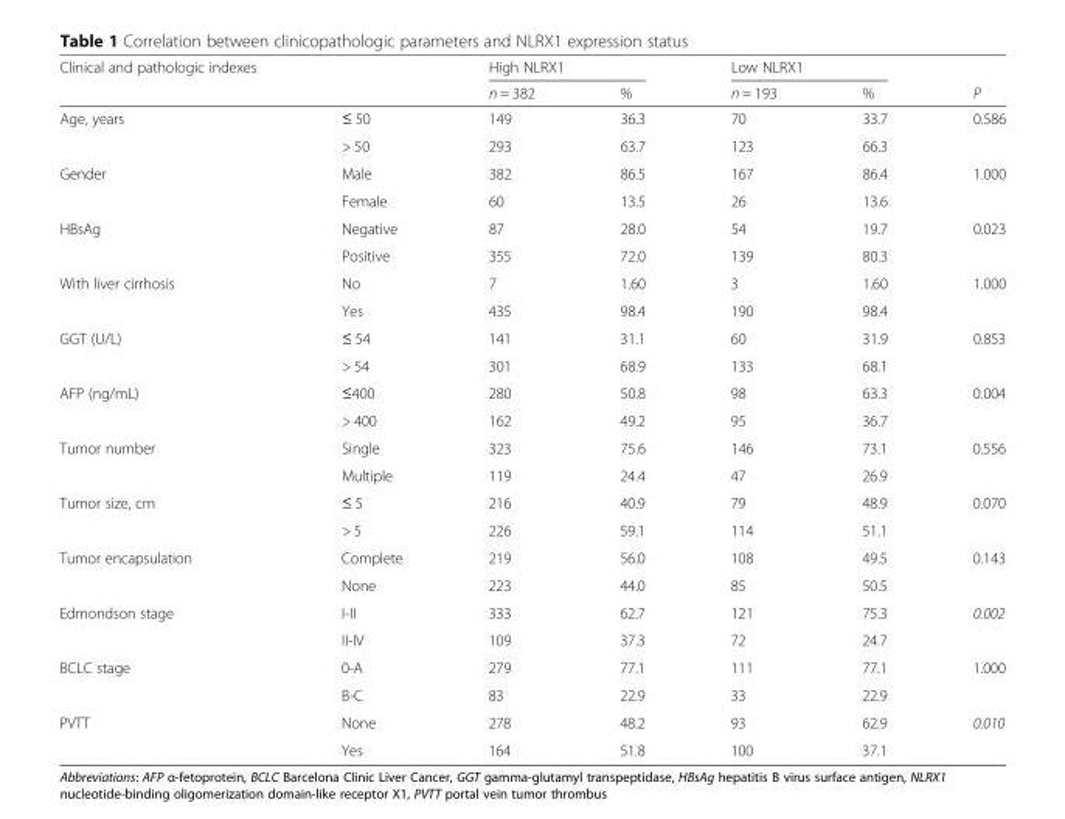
<table><thead><tr><td rowspan="2">Clinical and pathologic indexes</td><td rowspan="2"></td><td colspan="2">High NLRX1</td><td colspan="2">Low NLRX1</td><td rowspan="2">P</td></tr><tr><td>n = 382</td><td>%</td><td>n = 193</td><td>%</td></tr></thead><tbody><tr><td rowspan="2">Age, years</td><td>≤ 50</td><td>149</td><td>36.3</td><td>70</td><td>33.7</td><td>0.586</td></tr><tr><td>&gt; 50</td><td>293</td><td>63.7</td><td>123</td><td>66.3</td><td></td></tr><tr><td rowspan="2">Gender</td><td>Male</td><td>382</td><td>86.5</td><td>167</td><td>86.4</td><td>1.000</td></tr><tr><td>Female</td><td>60</td><td>13.5</td><td>26</td><td>13.6</td><td></td></tr><tr><td rowspan="2">HBsAg</td><td>Negative</td><td>87</td><td>28.0</td><td>54</td><td>19.7</td><td>0.023</td></tr><tr><td>Positive</td><td>355</td><td>72.0</td><td>139</td><td>80.3</td><td></td></tr><tr><td rowspan="2">With liver cirrhosis</td><td>No</td><td>7</td><td>1.60</td><td>3</td><td>1.60</td><td>1.000</td></tr><tr><td>Yes</td><td>435</td><td>98.4</td><td>190</td><td>98.4</td><td></td></tr><tr><td rowspan="2">GGT (U/L)</td><td>≤ 54</td><td>141</td><td>31.1</td><td>60</td><td>31.9</td><td>0.853</td></tr><tr><td>&gt; 54</td><td>301</td><td>68.9</td><td>133</td><td>68.1</td><td></td></tr><tr><td rowspan="2">AFP (ng/mL)</td><td>≤400</td><td>280</td><td>50.8</td><td>98</td><td>63.3</td><td>0.004</td></tr><tr><td>&gt; 400</td><td>162</td><td>49.2</td><td>95</td><td>36.7</td><td></td></tr><tr><td rowspan="2">Tumor number</td><td>Single</td><td>323</td><td>75.6</td><td>146</td><td>73.1</td><td>0.556</td></tr><tr><td>Multiple</td><td>119</td><td>24.4</td><td>47</td><td>26.9</td><td></td></tr><tr><td rowspan="2">Tumor size, cm</td><td>≤ 5</td><td>216</td><td>40.9</td><td>79</td><td>48.9</td><td>0.070</td></tr><tr><td>&gt; 5</td><td>226</td><td>59.1</td><td>114</td><td>51.1</td><td></td></tr><tr><td rowspan="2">Tumor encapsulation</td><td>Complete</td><td>219</td><td>56.0</td><td>108</td><td>49.5</td><td>0.143</td></tr><tr><td>None</td><td>223</td><td>44.0</td><td>85</td><td>50.5</td><td></td></tr><tr><td rowspan="2">Edmondson stage</td><td>I-II</td><td>333</td><td>62.7</td><td>121</td><td>75.3</td><td>0.002</td></tr><tr><td>II-IV</td><td>109</td><td>37.3</td><td>72</td><td>24.7</td><td></td></tr><tr><td rowspan="2">BCLC stage</td><td>0-A</td><td>279</td><td>77.1</td><td>111</td><td>77.1</td><td>1.000</td></tr><tr><td>B-C</td><td>83</td><td>22.9</td><td>33</td><td>22.9</td><td></td></tr><tr><td rowspan="2">PVTT</td><td>None</td><td>278</td><td>48.2</td><td>93</td><td>62.9</td><td>0.010</td></tr><tr><td>Yes</td><td>164</td><td>51.8</td><td>100</td><td>37.1</td><td></td></tr></tbody></table>